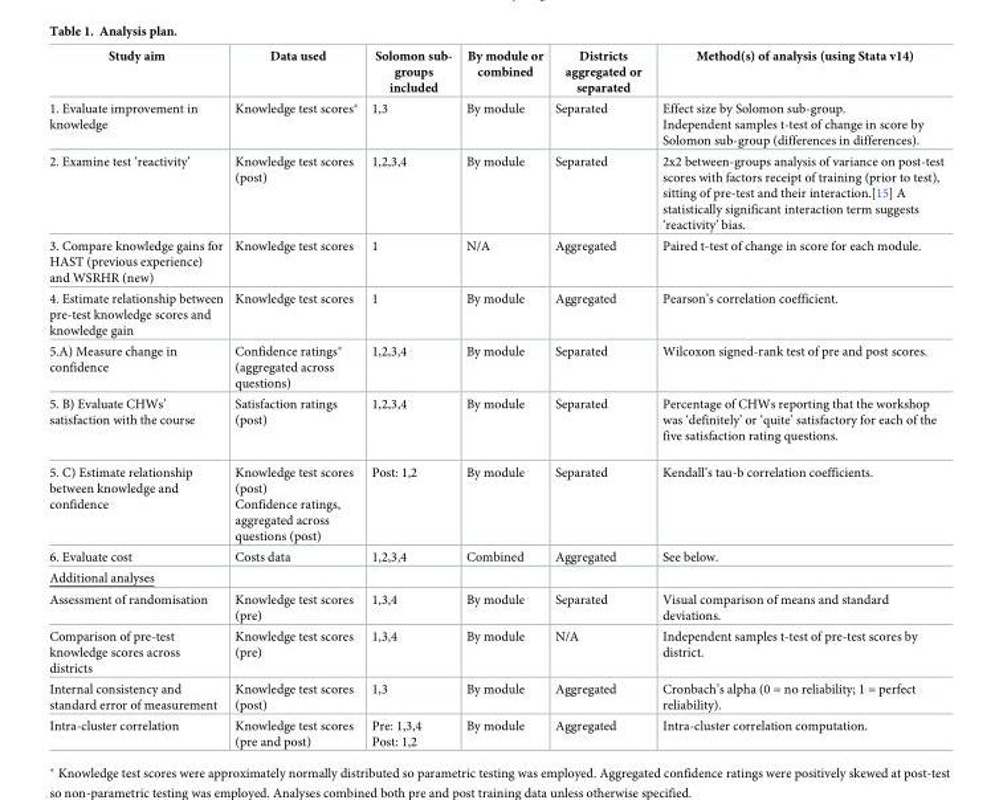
<table><thead><tr><td>Study aim</td><td>Data used</td><td>Solomon sub- groups included</td><td>By module or combined</td><td>Districts aggregated or separated</td><td>Method(s) of analysis (using Stata v14)</td></tr></thead><tbody><tr><td>1. Evaluate improvement in knowledge</td><td>Knowledge test scores*</td><td>1,3</td><td>By module</td><td>Separated</td><td>Effect size by Solomon sub-group. Independent samples t-test of change in score by Solomon sub-group (differences in differences).</td></tr><tr><td>2. Examine test ‘reactivity’</td><td>Knowledge test scores (post)</td><td>1,2,3,4</td><td>By module</td><td>Separated</td><td>2x2 between-groups analysis of variance on post-test scores with factors receipt of training (prior to test), sitting of pre-test and their interaction.[15] A statistically significant interaction term suggests ‘reactivity’ bias.</td></tr><tr><td>3. Compare knowledge gains for HAST (previous experience) and WSRHR (new)</td><td>Knowledge test scores</td><td>1</td><td>N/A</td><td>Aggregated</td><td>Paired t-test of change in score for each module.</td></tr><tr><td>4. Estimate relationship between pre-test knowledge scores and knowledge gain</td><td>Knowledge test scores</td><td>1</td><td>By module</td><td>Aggregated</td><td>Pearson’s correlation coefficient.</td></tr><tr><td>5.A) Measure change in confidence</td><td>Confidence ratings* (aggregated across questions)</td><td>1,2,3,4</td><td>By module</td><td>Separated</td><td>Wilcoxon signed-rank test of pre and post scores.</td></tr><tr><td>5. B) Evaluate CHWs’ satisfaction with the course</td><td>Satisfaction ratings (post)</td><td>1,2,3,4</td><td>By module</td><td>Separated</td><td>Percentage of CHWs reporting that the workshop was ‘definitely’ or ‘quite’ satisfactory for each of the five satisfaction rating questions.</td></tr><tr><td>5. C) Estimate relationship between knowledge and confidence</td><td>Knowledge test scores (post) Confidence ratings, aggregated across questions (post)</td><td>Post: 1,2</td><td>By module</td><td>Separated</td><td>Kendall’s tau-b correlation coefficients.</td></tr><tr><td>6. Evaluate cost</td><td>Costs data</td><td>1,2,3,4</td><td>Combined</td><td>Aggregated</td><td>See below.</td></tr><tr><td colspan="6">Additional analyses</td></tr><tr><td>Assessment of randomisation</td><td>Knowledge test scores (pre)</td><td>1,3,4</td><td>By module</td><td>Separated</td><td>Visual comparison of means and standard deviations.</td></tr><tr><td>Comparison of pre-test knowledge scores across districts</td><td>Knowledge test scores (pre)</td><td>1,3,4</td><td>By module</td><td>N/A</td><td>Independent samples t-test of pre-test scores by district.</td></tr><tr><td>Internal consistency and standard error of measurement</td><td>Knowledge test scores (post)</td><td>1,3</td><td>By module</td><td>Aggregated</td><td>Cronbach’s alpha (0 = no reliability; 1 = perfect reliability).</td></tr><tr><td>Intra-cluster correlation</td><td>Knowledge test scores (pre and post)</td><td>Pre: 1,3,4 Post: 1,2</td><td>By module</td><td>Aggregated</td><td>Intra-cluster correlation computation.</td></tr></tbody></table>